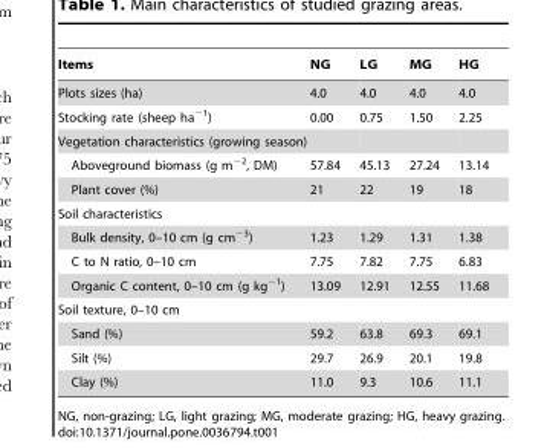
<table><thead><tr><td>Items</td><td>NG</td><td>LG</td><td>MG</td><td>HG</td></tr></thead><tbody><tr><td>Plots sizes (ha)</td><td>4.0</td><td>4.0</td><td>4.0</td><td>4.0</td></tr><tr><td>Stocking rate (sheep ha<sup>−1</sup>)</td><td>0.00</td><td>0.75</td><td>1.50</td><td>2.25</td></tr><tr><td colspan="5">Vegetation characteristics (growing season)</td></tr><tr><td>Aboveground biomass (g m<sup>−2</sup>, DM)</td><td>57.84</td><td>45.13</td><td>27.24</td><td>13.14</td></tr><tr><td>Plant cover (%)</td><td>21</td><td>22</td><td>19</td><td>18</td></tr><tr><td colspan="5">Soil characteristics</td></tr><tr><td>Bulk density, 0–10 cm (g cm<sup>−3</sup>)</td><td>1.23</td><td>1.29</td><td>1.31</td><td>1.38</td></tr><tr><td>C to N ratio, 0–10 cm</td><td>7.75</td><td>7.82</td><td>7.75</td><td>6.83</td></tr><tr><td>Organic C content, 0–10 cm (g kg<sup>−1</sup>)</td><td>13.09</td><td>12.91</td><td>12.55</td><td>11.68</td></tr><tr><td colspan="5">Soil texture, 0–10 cm</td></tr><tr><td>Sand (%)</td><td>59.2</td><td>63.8</td><td>69.3</td><td>69.1</td></tr><tr><td>Silt (%)</td><td>29.7</td><td>26.9</td><td>20.1</td><td>19.8</td></tr><tr><td>Clay (%)</td><td>11.0</td><td>9.3</td><td>10.6</td><td>11.1</td></tr></tbody></table>